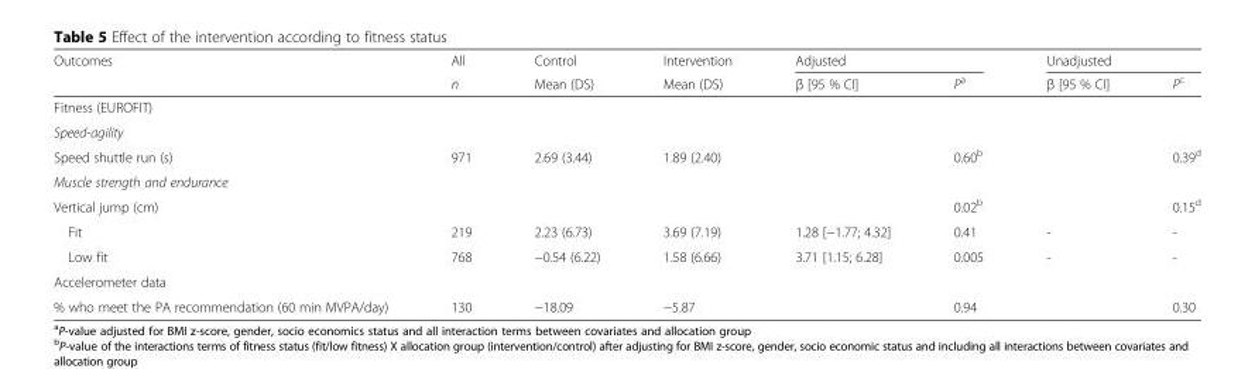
<table><thead><tr><td rowspan="2">Outcomes</td><td rowspan="2">All n</td><td rowspan="2">Control Mean (DS)</td><td rowspan="2">Intervention Mean (DS)</td><td colspan="2">Adjusted</td><td colspan="2">Unadjusted</td></tr><tr><td>β [95 % CI]</td><td>P<sup>a</sup></td><td>β [95 % CI]</td><td>P<sup>c</sup></td></tr></thead><tbody><tr><td colspan="8">Fitness (EUROFIT)</td></tr><tr><td colspan="8">Speed-agility</td></tr><tr><td>Speed shuttle run (s)</td><td>971</td><td>2.69 (3.44)</td><td>1.89 (2.40)</td><td></td><td>0.60<sup>b</sup></td><td></td><td>0.39<sup>d</sup></td></tr><tr><td colspan="8">Muscle strength and endurance</td></tr><tr><td>Vertical jump (cm)</td><td></td><td></td><td></td><td></td><td>0.02<sup>b</sup></td><td></td><td>0.15<sup>d</sup></td></tr><tr><td>Fit</td><td>219</td><td>2.23 (6.73)</td><td>3.69 (7.19)</td><td>1.28 [−1.77; 4.32]</td><td>0.41</td><td>-</td><td>-</td></tr><tr><td>Low fit</td><td>768</td><td>−0.54 (6.22)</td><td>1.58 (6.66)</td><td>3.71 [1.15; 6.28]</td><td>0.005</td><td>-</td><td>-</td></tr><tr><td colspan="8">Accelerometer data</td></tr><tr><td>% who meet the PA recommendation (60 min MVPA/day)</td><td>130</td><td>−18.09</td><td>−5.87</td><td></td><td>0.94</td><td></td><td>0.30</td></tr></tbody></table>